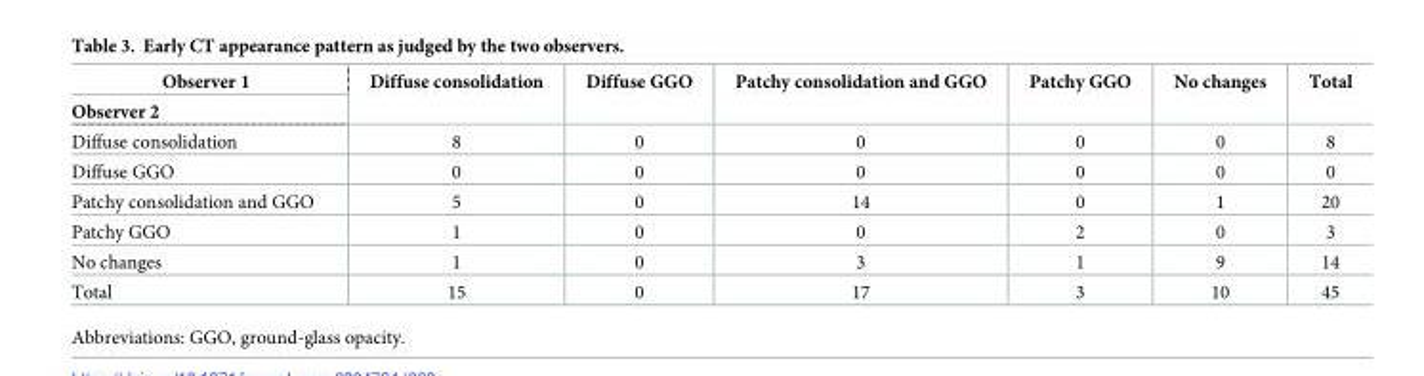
<table><thead><tr><td rowspan="2">Observer 1 Observer 2</td><td rowspan="2">Diffuse consolidation</td><td rowspan="2">Diffuse GGO</td><td rowspan="2">Patchy consolidation and GGO</td><td rowspan="2">Patchy GGO</td><td rowspan="2">No changes</td><td rowspan="2">Total</td></tr><tr></tr></thead><tbody><tr><td>Diffuse consolidation</td><td>8</td><td>0</td><td>0</td><td>0</td><td>0</td><td>8</td></tr><tr><td>Diffuse GGO</td><td>0</td><td>0</td><td>0</td><td>0</td><td>0</td><td>0</td></tr><tr><td>Patchy consolidation and GGO</td><td>5</td><td>0</td><td>14</td><td>0</td><td>1</td><td>20</td></tr><tr><td>Patchy GGO</td><td>1</td><td>0</td><td>0</td><td>2</td><td>0</td><td>3</td></tr><tr><td>No changes</td><td>1</td><td>0</td><td>3</td><td>1</td><td>9</td><td>14</td></tr><tr><td>Total</td><td>15</td><td>0</td><td>17</td><td>3</td><td>10</td><td>45</td></tr></tbody></table>